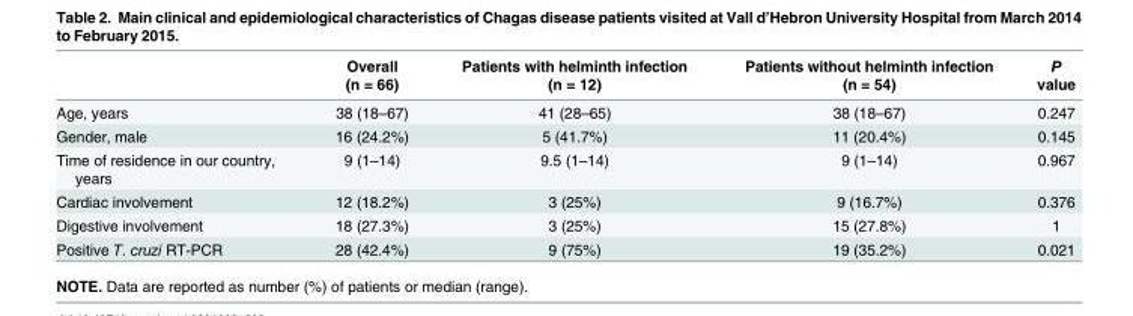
<table><thead><tr><td></td><td>Overall (n = 66)</td><td>Patients with helminth infection (n = 12)</td><td>Patients without helminth infection (n = 54)</td><td>P value</td></tr></thead><tbody><tr><td>Age, years</td><td>38 (18–67)</td><td>41 (28–65)</td><td>38 (18–67)</td><td>0.247</td></tr><tr><td>Gender, male</td><td>16 (24.2%)</td><td>5 (41.7%)</td><td>11 (20.4%)</td><td>0.145</td></tr><tr><td>Time of residence in our country, years</td><td>9 (1–14)</td><td>9.5 (1–14)</td><td>9 (1–14)</td><td>0.967</td></tr><tr><td>Cardiac involvement</td><td>12 (18.2%)</td><td>3 (25%)</td><td>9 (16.7%)</td><td>0.376</td></tr><tr><td>Digestive involvement</td><td>18 (27.3%)</td><td>3 (25%)</td><td>15 (27.8%)</td><td>1</td></tr><tr><td>Positive T. cruzi RT-PCR</td><td>28 (42.4%)</td><td>9 (75%)</td><td>19 (35.2%)</td><td>0.021</td></tr></tbody></table>